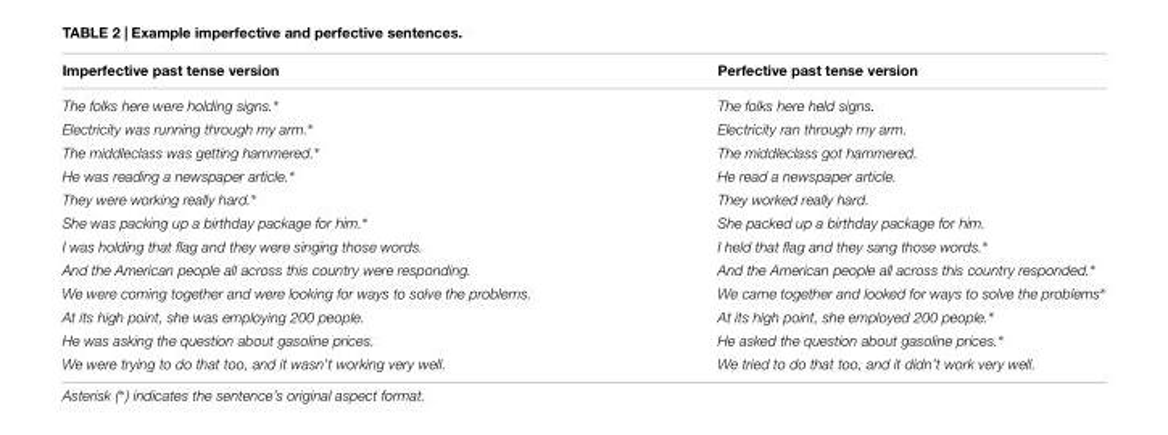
<table><thead><tr><td>Imperfective past tense version</td><td>Perfective past tense version</td></tr></thead><tbody><tr><td>The folks here were holding signs.∗</td><td>The folks here held signs.</td></tr><tr><td>Electricity was running through my arm.∗</td><td>Electricity ran through my arm.</td></tr><tr><td>The middleclass was getting hammered.∗</td><td>The middleclass got hammered.</td></tr><tr><td>He was reading a newspaper article.∗</td><td>He read a newspaper article.</td></tr><tr><td>They were working really hard.∗</td><td>They worked really hard.</td></tr><tr><td>She was packing up a birthday package for him.∗</td><td>She packed up a birthday package for him.</td></tr><tr><td>I was holding that flag and they were singing those words.</td><td>I held that flag and they sang those words.∗</td></tr><tr><td>And the American people all across this country were responding.</td><td>And the American people all across this country responded.∗</td></tr><tr><td>We were coming together and were looking for ways to solve the problems.</td><td>We came together and looked for ways to solve the problems∗</td></tr><tr><td>At its high point, she was employing 200 people.</td><td>At its high point, she employed 200 people.∗</td></tr><tr><td>He was asking the question about gasoline prices.</td><td>He asked the question about gasoline prices.∗</td></tr><tr><td>We were trying to do that too, and it wasn’t working very well.</td><td>We tried to do that too, and it didn’t work very well.</td></tr></tbody></table>